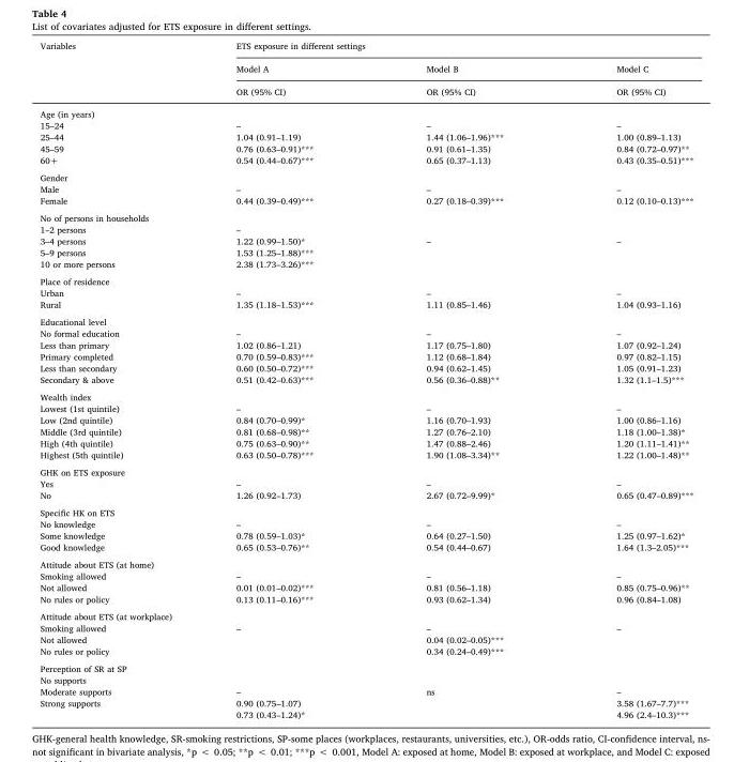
<table><thead><tr><td rowspan="3">Variables</td><td colspan="3">ETS exposure in different settings</td></tr><tr><td rowspan="2">Model A OR (95% CI)</td><td rowspan="2">Model B OR (95% CI)</td><td rowspan="2">Model C OR (95% CI)</td></tr><tr></tr></thead><tbody><tr><td colspan="4">Age (in years)</td></tr><tr><td>15–24</td><td>–</td><td>–</td><td>–</td></tr><tr><td>25–44</td><td>1.04 (0.91–1.19)</td><td>1.44 (1.06–1.96)***</td><td>1.00 (0.89–1.13)</td></tr><tr><td>45–59</td><td>0.76 (0.63–0.91)***</td><td>0.91 (0.61–1.35)</td><td>0.84 (0.72–0.97)**</td></tr><tr><td>60+</td><td>0.54 (0.44–0.67)***</td><td>0.65 (0.37–1.13)</td><td>0.43 (0.35–0.51)***</td></tr><tr><td colspan="4">Gender</td></tr><tr><td>Male</td><td>–</td><td>–</td><td>–</td></tr><tr><td>Female</td><td>0.44 (0.39–0.49)***</td><td>0.27 (0.18–0.39)***</td><td>0.12 (0.10–0.13)***</td></tr><tr><td colspan="4">No of persons in households</td></tr><tr><td>1–2 persons</td><td>–</td><td></td><td></td></tr><tr><td>3–4 persons</td><td>1.22 (0.99–1.50)*</td><td>–</td><td>–</td></tr><tr><td>5–9 persons</td><td>1.53 (1.25–1.88)***</td><td></td><td></td></tr><tr><td>10 or more persons</td><td>2.38 (1.73–3.26)***</td><td></td><td></td></tr><tr><td colspan="4">Place of residence</td></tr><tr><td>Urban</td><td>–</td><td>–</td><td>–</td></tr><tr><td>Rural</td><td>1.35 (1.18–1.53)***</td><td>1.11 (0.85–1.46)</td><td>1.04 (0.93–1.16)</td></tr><tr><td colspan="4">Educational level</td></tr><tr><td>No formal education</td><td>–</td><td>–</td><td>–</td></tr><tr><td>Less than primary</td><td>1.02 (0.86–1.21)</td><td>1.17 (0.75–1.80)</td><td>1.07 (0.92–1.24)</td></tr><tr><td>Primary completed</td><td>0.70 (0.59–0.83)***</td><td>1.12 (0.68–1.84)</td><td>0.97 (0.82–1.15)</td></tr><tr><td>Less than secondary</td><td>0.60 (0.50–0.72)***</td><td>0.94 (0.62–1.45)</td><td>1.05 (0.91–1.23)</td></tr><tr><td>Secondary &amp; above</td><td>0.51 (0.42–0.63)***</td><td>0.56 (0.36–0.88)**</td><td>1.32 (1.1–1.5)***</td></tr><tr><td colspan="4">Wealth index</td></tr><tr><td>Lowest (1st quintile)</td><td>–</td><td>–</td><td>–</td></tr><tr><td>Low (2nd quintile)</td><td>0.84 (0.70–0.99)*</td><td>1.16 (0.70–1.93)</td><td>1.00 (0.86–1.16)</td></tr><tr><td>Middle (3rd quintile)</td><td>0.81 (0.68–0.98)**</td><td>1.27 (0.76–2.10)</td><td>1.18 (1.00–1.38)*</td></tr><tr><td>High (4th quintile)</td><td>0.75 (0.63–0.90)**</td><td>1.47 (0.88–2.46)</td><td>1.20 (1.11–1.41)**</td></tr><tr><td>Highest (5th quintile)</td><td>0.63 (0.50–0.78)***</td><td>1.90 (1.08–3.34)**</td><td>1.22 (1.00–1.48)**</td></tr><tr><td colspan="4">GHK on ETS exposure</td></tr><tr><td>Yes</td><td>–</td><td>–</td><td>–</td></tr><tr><td>No</td><td>1.26 (0.92–1.73)</td><td>2.67 (0.72–9.99)*</td><td>0.65 (0.47–0.89)***</td></tr><tr><td colspan="4">Specific HK on ETS</td></tr><tr><td>No knowledge</td><td>–</td><td>–</td><td>–</td></tr><tr><td>Some knowledge</td><td>0.78 (0.59–1.03)*</td><td>0.64 (0.27–1.50)</td><td>1.25 (0.97–1.62)*</td></tr><tr><td>Good knowledge</td><td>0.65 (0.53–0.76)**</td><td>0.54 (0.44–0.67)</td><td>1.64 (1.3–2.05)***</td></tr><tr><td colspan="4">Attitude about ETS (at home)</td></tr><tr><td>Smoking allowed</td><td>–</td><td>–</td><td>–</td></tr><tr><td>Not allowed</td><td>0.01 (0.01–0.02)***</td><td>0.81 (0.56–1.18)</td><td>0.85 (0.75–0.96)**</td></tr><tr><td>No rules or policy</td><td>0.13 (0.11–0.16)***</td><td>0.93 (0.62–1.34)</td><td>0.96 (0.84–1.08)</td></tr><tr><td colspan="4">Attitude about ETS (at workplace)</td></tr><tr><td>Smoking allowed</td><td>–</td><td>–</td><td>–</td></tr><tr><td>Not allowed</td><td></td><td>0.04 (0.02–0.05)***</td><td></td></tr><tr><td>No rules or policy</td><td></td><td>0.34 (0.24–0.49)***</td><td></td></tr><tr><td colspan="4">Perception of SR at SP</td></tr><tr><td colspan="4">No supports</td></tr><tr><td>Moderate supports</td><td>–</td><td>ns</td><td>–</td></tr><tr><td rowspan="2">Strong supports</td><td>0.90 (0.75–1.07)</td><td></td><td>3.58 (1.67–7.7)***</td></tr><tr><td>0.73 (0.43–1.24)*</td><td></td><td>4.96 (2.4–10.3)***</td></tr></tbody></table>